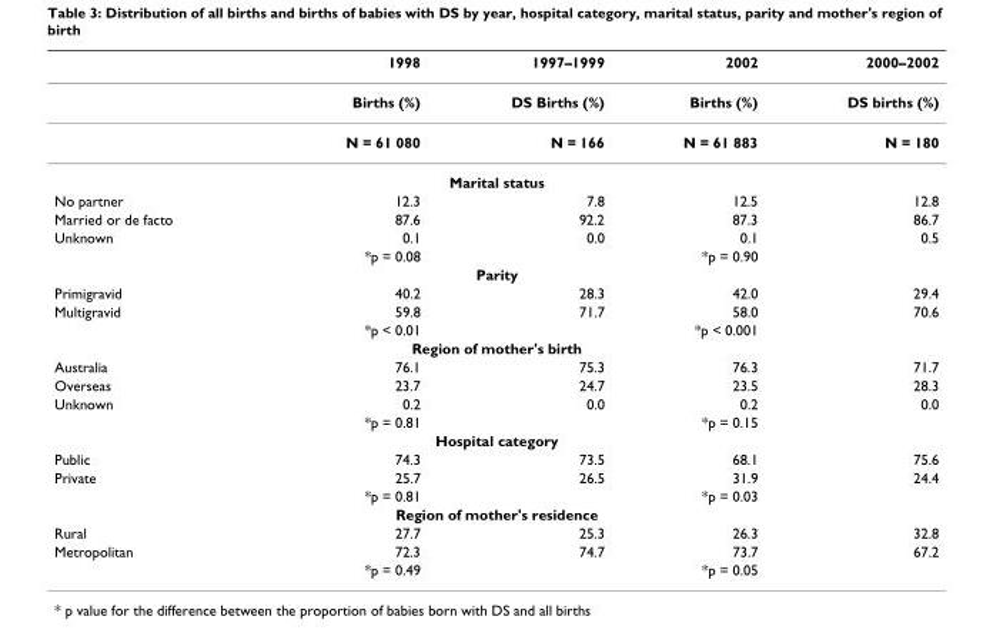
<table><thead><tr><td></td><td>1998</td><td>1997–1999</td><td>2002</td><td>2000–2002</td></tr></thead><tbody><tr><td></td><td>Births (%)</td><td>DS Births (%)</td><td>Births (%)</td><td>DS births (%)</td></tr><tr><td></td><td>N = 61 080</td><td>N = 166</td><td>N = 61 883</td><td>N = 180</td></tr><tr><td colspan="5">Marital status</td></tr><tr><td>No partner</td><td>12.3</td><td>7.8</td><td>12.5</td><td>12.8</td></tr><tr><td>Married or de facto</td><td>87.6</td><td>92.2</td><td>87.3</td><td>86.7</td></tr><tr><td rowspan="2">Unknown</td><td>0.1</td><td>0.0</td><td>0.1</td><td>0.5</td></tr><tr><td>*p = 0.08</td><td></td><td>*p = 0.90</td><td></td></tr><tr><td colspan="5">Parity</td></tr><tr><td>Primigravid</td><td>40.2</td><td>28.3</td><td>42.0</td><td>29.4</td></tr><tr><td rowspan="2">Multigravid</td><td>59.8</td><td>71.7</td><td>58.0</td><td>70.6</td></tr><tr><td>*p &lt; 0.01</td><td></td><td>*p &lt; 0.001</td><td></td></tr><tr><td colspan="5">Region of mother&#x27;s birth</td></tr><tr><td>Australia</td><td>76.1</td><td>75.3</td><td>76.3</td><td>71.7</td></tr><tr><td>Overseas</td><td>23.7</td><td>24.7</td><td>23.5</td><td>28.3</td></tr><tr><td rowspan="2">Unknown</td><td>0.2</td><td>0.0</td><td>0.2</td><td>0.0</td></tr><tr><td>*p = 0.81</td><td></td><td>*p = 0.15</td><td></td></tr><tr><td colspan="5">Hospital category</td></tr><tr><td>Public</td><td>74.3</td><td>73.5</td><td>68.1</td><td>75.6</td></tr><tr><td rowspan="2">Private</td><td>25.7</td><td>26.5</td><td>31.9</td><td>24.4</td></tr><tr><td>*p = 0.81</td><td></td><td>*p = 0.03</td><td></td></tr><tr><td colspan="5">Region of mother&#x27;s residence</td></tr><tr><td>Rural</td><td>27.7</td><td>25.3</td><td>26.3</td><td>32.8</td></tr><tr><td rowspan="2">Metropolitan</td><td>72.3</td><td>74.7</td><td>73.7</td><td>67.2</td></tr><tr><td>*p = 0.49</td><td></td><td>*p = 0.05</td><td></td></tr></tbody></table>